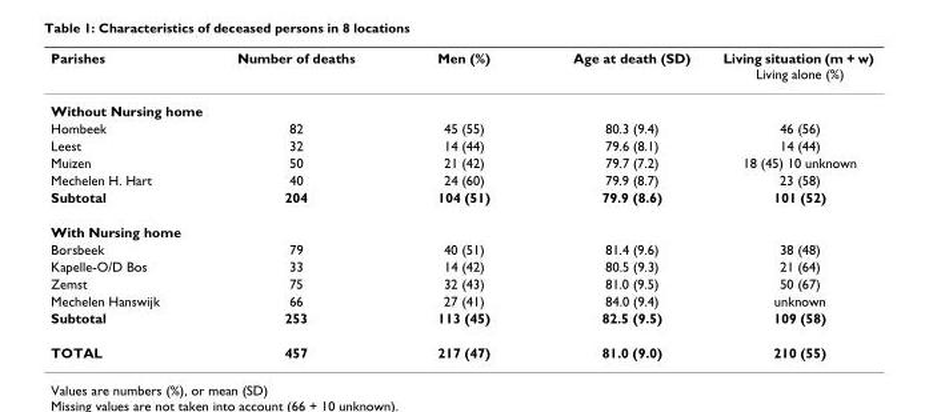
<table><thead><tr><td>Parishes</td><td>Number of deaths</td><td>Men (%)</td><td>Age at death (SD)</td><td>Living situation (m + w) Living alone (%)</td></tr></thead><tbody><tr><td colspan="5">Without Nursing home</td></tr><tr><td>Hombeek</td><td>82</td><td>45 (55)</td><td>80.3 (9.4)</td><td>46 (56)</td></tr><tr><td>Leest</td><td>32</td><td>14 (44)</td><td>79.6 (8.1)</td><td>14 (44)</td></tr><tr><td>Muizen</td><td>50</td><td>21 (42)</td><td>79.7 (7.2)</td><td>18 (45) 10 unknown</td></tr><tr><td>Mechelen H. Hart</td><td>40</td><td>24 (60)</td><td>79.9 (8.7)</td><td>23 (58)</td></tr><tr><td>Subtotal</td><td>204</td><td>104 (51)</td><td>79.9 (8.6)</td><td>101 (52)</td></tr><tr><td colspan="5">With Nursing home</td></tr><tr><td>Borsbeek</td><td>79</td><td>40 (51)</td><td>81.4 (9.6)</td><td>38 (48)</td></tr><tr><td>Kapelle-O/D Bos</td><td>33</td><td>14 (42)</td><td>80.5 (9.3)</td><td>21 (64)</td></tr><tr><td>Zemst</td><td>75</td><td>32 (43)</td><td>81.0 (9.5)</td><td>50 (67)</td></tr><tr><td>Mechelen Hanswijk</td><td>66</td><td>27 (41)</td><td>84.0 (9.4)</td><td>unknown</td></tr><tr><td>Subtotal</td><td>253</td><td>113 (45)</td><td>82.5 (9.5)</td><td>109 (58)</td></tr><tr><td>TOTAL</td><td>457</td><td>217 (47)</td><td>81.0 (9.0)</td><td>210 (55)</td></tr></tbody></table>